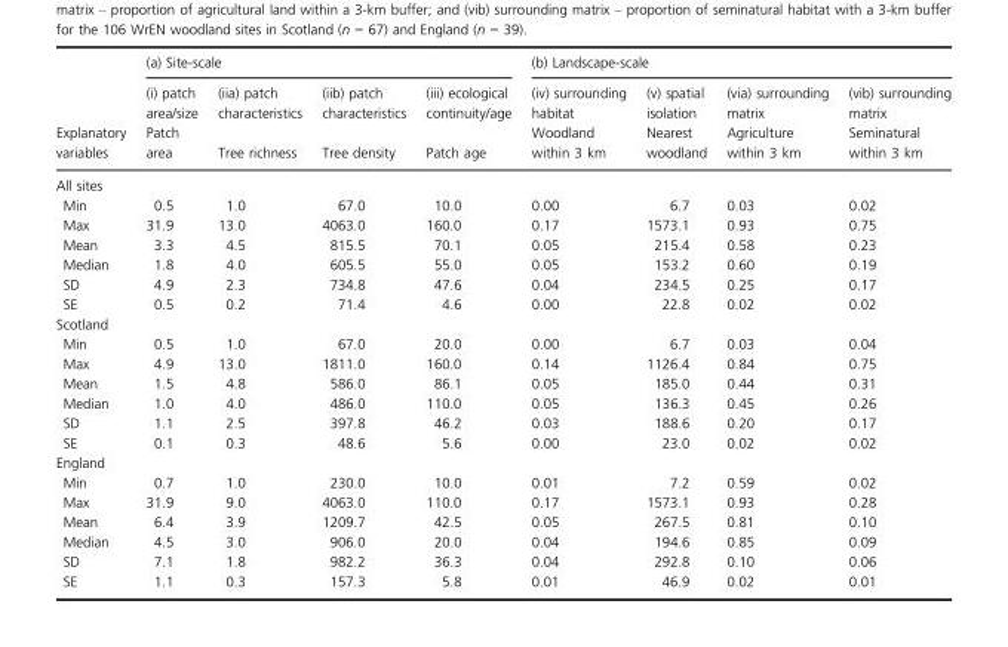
<table><thead><tr><td rowspan="3">Explanatory variables</td><td colspan="4">(a) Site-scale</td><td colspan="4">(b) Landscape-scale</td></tr><tr><td rowspan="2">(i) patch area/size Patch area</td><td rowspan="2">(iia) patch characteristics Tree richness</td><td rowspan="2">(iib) patch characteristics Tree density</td><td rowspan="2">(iii) ecological continuity/age Patch age</td><td rowspan="2">(iv) surrounding habitat Woodland within 3 km</td><td rowspan="2">(v) spatial isolation Nearest woodland</td><td rowspan="2">(via) surrounding matrix Agriculture within 3 km</td><td rowspan="2">(vib) surrounding matrix Seminatural within 3 km</td></tr><tr></tr></thead><tbody><tr><td colspan="9">All sites</td></tr><tr><td>Min</td><td>0.5</td><td>1.0</td><td>67.0</td><td>10.0</td><td>0.00</td><td>6.7</td><td>0.03</td><td>0.02</td></tr><tr><td>Max</td><td>31.9</td><td>13.0</td><td>4063.0</td><td>160.0</td><td>0.17</td><td>1573.1</td><td>0.93</td><td>0.75</td></tr><tr><td>Mean</td><td>3.3</td><td>4.5</td><td>815.5</td><td>70.1</td><td>0.05</td><td>215.4</td><td>0.58</td><td>0.23</td></tr><tr><td>Median</td><td>1.8</td><td>4.0</td><td>605.5</td><td>55.0</td><td>0.05</td><td>153.2</td><td>0.60</td><td>0.19</td></tr><tr><td>SD</td><td>4.9</td><td>2.3</td><td>734.8</td><td>47.6</td><td>0.04</td><td>234.5</td><td>0.25</td><td>0.17</td></tr><tr><td>SE</td><td>0.5</td><td>0.2</td><td>71.4</td><td>4.6</td><td>0.00</td><td>22.8</td><td>0.02</td><td>0.02</td></tr><tr><td colspan="9">Scotland</td></tr><tr><td>Min</td><td>0.5</td><td>1.0</td><td>67.0</td><td>20.0</td><td>0.00</td><td>6.7</td><td>0.03</td><td>0.04</td></tr><tr><td>Max</td><td>4.9</td><td>13.0</td><td>1811.0</td><td>160.0</td><td>0.14</td><td>1126.4</td><td>0.84</td><td>0.75</td></tr><tr><td>Mean</td><td>1.5</td><td>4.8</td><td>586.0</td><td>86.1</td><td>0.05</td><td>185.0</td><td>0.44</td><td>0.31</td></tr><tr><td>Median</td><td>1.0</td><td>4.0</td><td>486.0</td><td>110.0</td><td>0.05</td><td>136.3</td><td>0.45</td><td>0.26</td></tr><tr><td>SD</td><td>1.1</td><td>2.5</td><td>397.8</td><td>46.2</td><td>0.03</td><td>188.6</td><td>0.20</td><td>0.17</td></tr><tr><td>SE</td><td>0.1</td><td>0.3</td><td>48.6</td><td>5.6</td><td>0.00</td><td>23.0</td><td>0.02</td><td>0.02</td></tr><tr><td colspan="9">England</td></tr><tr><td>Min</td><td>0.7</td><td>1.0</td><td>230.0</td><td>10.0</td><td>0.01</td><td>7.2</td><td>0.59</td><td>0.02</td></tr><tr><td>Max</td><td>31.9</td><td>9.0</td><td>4063.0</td><td>110.0</td><td>0.17</td><td>1573.1</td><td>0.93</td><td>0.28</td></tr><tr><td>Mean</td><td>6.4</td><td>3.9</td><td>1209.7</td><td>42.5</td><td>0.05</td><td>267.5</td><td>0.81</td><td>0.10</td></tr><tr><td>Median</td><td>4.5</td><td>3.0</td><td>906.0</td><td>20.0</td><td>0.04</td><td>194.6</td><td>0.85</td><td>0.09</td></tr><tr><td>SD</td><td>7.1</td><td>1.8</td><td>982.2</td><td>36.3</td><td>0.04</td><td>292.8</td><td>0.10</td><td>0.06</td></tr><tr><td>SE</td><td>1.1</td><td>0.3</td><td>157.3</td><td>5.8</td><td>0.01</td><td>46.9</td><td>0.02</td><td>0.01</td></tr></tbody></table>